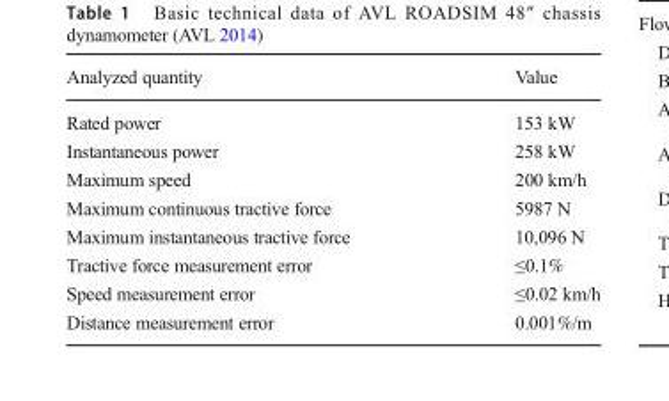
<table><thead><tr><td>Analyzed quantity</td><td>Value</td></tr></thead><tbody><tr><td>Rated power</td><td>153 kW</td></tr><tr><td>Instantaneous power</td><td>258 kW</td></tr><tr><td>Maximum speed</td><td>200 km/h</td></tr><tr><td>Maximum continuous tractive force</td><td>5987 N</td></tr><tr><td>Maximum instantaneous tractive force</td><td>10,096 N</td></tr><tr><td>Tractive force measurement error</td><td>≤0.1%</td></tr><tr><td>Speed measurement error</td><td>≤0.02 km/h</td></tr><tr><td>Distance measurement error</td><td>0.001%/m</td></tr></tbody></table>